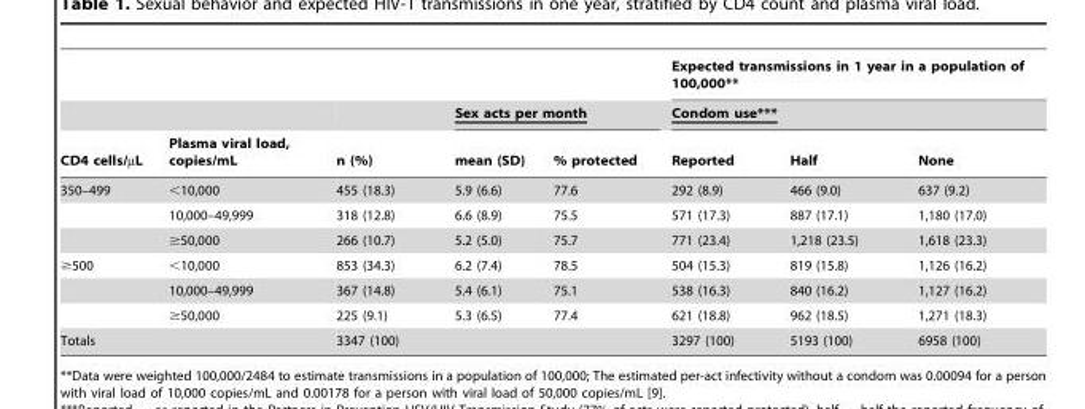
<table><thead><tr><td rowspan="3">CD4 cells/µL</td><td rowspan="3">Plasma viral load, copies/mL</td><td rowspan="3">n (%)</td><td></td><td></td><td rowspan="2" colspan="3">Expected transmissions in 1 year in a population of 100,000** Condom use***</td></tr><tr><td colspan="2">Sex acts per month</td></tr><tr><td>mean (SD)</td><td>% protected</td><td>Reported</td><td>Half</td><td>None</td></tr></thead><tbody><tr><td rowspan="3">350–499</td><td>&lt;10,000</td><td>455 (18.3)</td><td>5.9 (6.6)</td><td>77.6</td><td>292 (8.9)</td><td>466 (9.0)</td><td>637 (9.2)</td></tr><tr><td>10,000–49,999</td><td>318 (12.8)</td><td>6.6 (8.9)</td><td>75.5</td><td>571 (17.3)</td><td>887 (17.1)</td><td>1,180 (17.0)</td></tr><tr><td>≥50,000</td><td>266 (10.7)</td><td>5.2 (5.0)</td><td>75.7</td><td>771 (23.4)</td><td>1,218 (23.5)</td><td>1,618 (23.3)</td></tr><tr><td rowspan="3">≥500</td><td>&lt;10,000</td><td>853 (34.3)</td><td>6.2 (7.4)</td><td>78.5</td><td>504 (15.3)</td><td>819 (15.8)</td><td>1,126 (16.2)</td></tr><tr><td>10,000–49,999</td><td>367 (14.8)</td><td>5.4 (6.1)</td><td>75.1</td><td>538 (16.3)</td><td>840 (16.2)</td><td>1,127 (16.2)</td></tr><tr><td>≥50,000</td><td>225 (9.1)</td><td>5.3 (6.5)</td><td>77.4</td><td>621 (18.8)</td><td>962 (18.5)</td><td>1,271 (18.3)</td></tr><tr><td>Totals</td><td></td><td>3347 (100)</td><td></td><td></td><td>3297 (100)</td><td>5193 (100)</td><td>6958 (100)</td></tr></tbody></table>